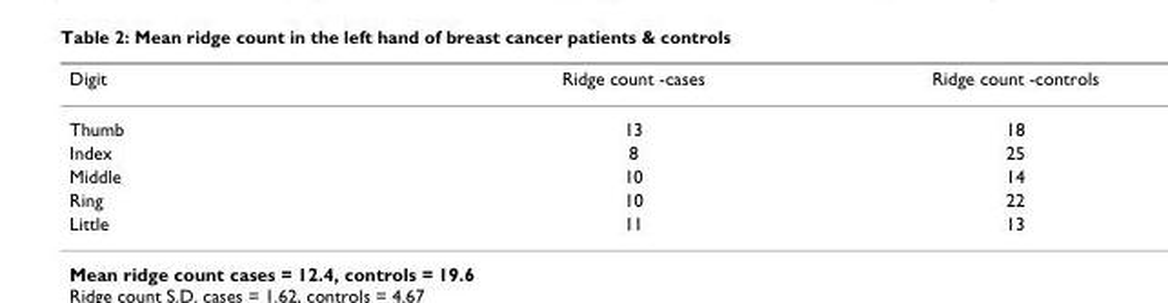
<table><thead><tr><td>Digit</td><td>Ridge count -cases</td><td>Ridge count -controls</td></tr></thead><tbody><tr><td>Thumb</td><td>13</td><td>18</td></tr><tr><td>Index</td><td>8</td><td>25</td></tr><tr><td>Middle</td><td>10</td><td>14</td></tr><tr><td>Ring</td><td>10</td><td>22</td></tr><tr><td>Little</td><td>11</td><td>13</td></tr></tbody></table>